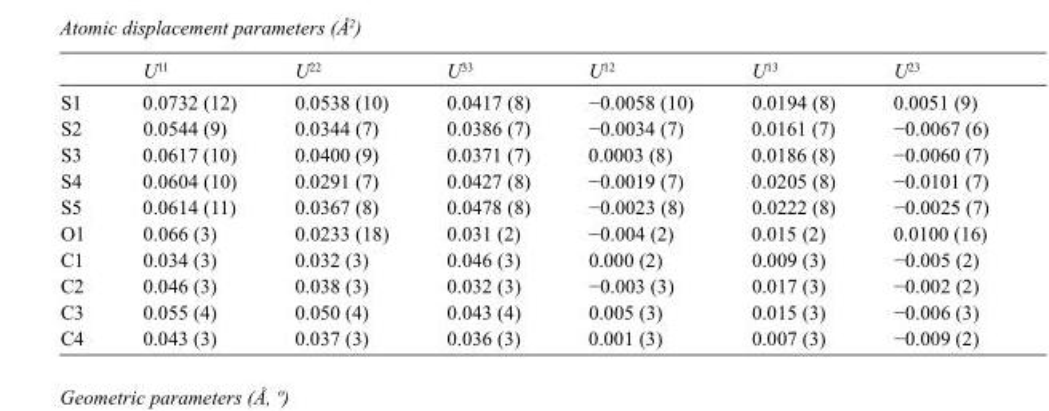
<table><thead><tr><td></td><td>U<sup>11</sup></td><td>U<sup>22</sup></td><td>U<sup>33</sup></td><td>U<sup>12</sup></td><td>U<sup>13</sup></td><td>U<sup>23</sup></td></tr></thead><tbody><tr><td>S1</td><td>0.0732 (12)</td><td>0.0538 (10)</td><td>0.0417 (8)</td><td>−0.0058 (10)</td><td>0.0194 (8)</td><td>0.0051 (9)</td></tr><tr><td>S2</td><td>0.0544 (9)</td><td>0.0344 (7)</td><td>0.0386 (7)</td><td>−0.0034 (7)</td><td>0.0161 (7)</td><td>−0.0067 (6)</td></tr><tr><td>S3</td><td>0.0617 (10)</td><td>0.0400 (9)</td><td>0.0371 (7)</td><td>0.0003 (8)</td><td>0.0186 (8)</td><td>−0.0060 (7)</td></tr><tr><td>S4</td><td>0.0604 (10)</td><td>0.0291 (7)</td><td>0.0427 (8)</td><td>−0.0019 (7)</td><td>0.0205 (8)</td><td>−0.0101 (7)</td></tr><tr><td>S5</td><td>0.0614 (11)</td><td>0.0367 (8)</td><td>0.0478 (8)</td><td>−0.0023 (8)</td><td>0.0222 (8)</td><td>−0.0025 (7)</td></tr><tr><td>O1</td><td>0.066 (3)</td><td>0.0233 (18)</td><td>0.031 (2)</td><td>−0.004 (2)</td><td>0.015 (2)</td><td>0.0100 (16)</td></tr><tr><td>C1</td><td>0.034 (3)</td><td>0.032 (3)</td><td>0.046 (3)</td><td>0.000 (2)</td><td>0.009 (3)</td><td>−0.005 (2)</td></tr><tr><td>C2</td><td>0.046 (3)</td><td>0.038 (3)</td><td>0.032 (3)</td><td>−0.003 (3)</td><td>0.017 (3)</td><td>−0.002 (2)</td></tr><tr><td>C3</td><td>0.055 (4)</td><td>0.050 (4)</td><td>0.043 (4)</td><td>0.005 (3)</td><td>0.015 (3)</td><td>−0.006 (3)</td></tr><tr><td>C4</td><td>0.043 (3)</td><td>0.037 (3)</td><td>0.036 (3)</td><td>0.001 (3)</td><td>0.007 (3)</td><td>−0.009 (2)</td></tr></tbody></table>